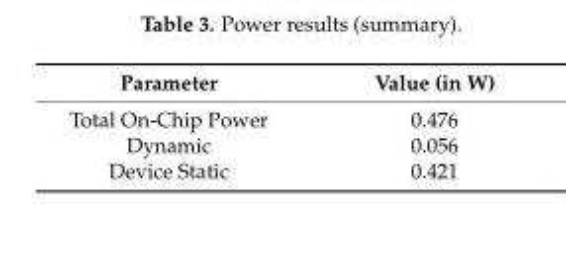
<table><thead><tr><td>Parameter</td><td>Value (in W)</td></tr></thead><tbody><tr><td>Total On-Chip Power</td><td>0.476</td></tr><tr><td>Dynamic</td><td>0.056</td></tr><tr><td>Device Static</td><td>0.421</td></tr></tbody></table>